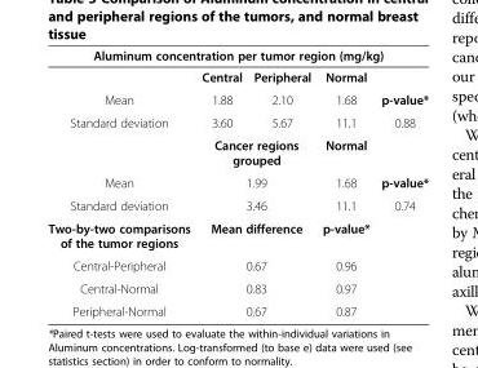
<table><thead><tr><td colspan="5">Aluminum concentration per tumor region (mg/kg)</td></tr><tr><td></td><td>Central</td><td>Peripheral</td><td>Normal</td><td></td></tr></thead><tbody><tr><td>Mean</td><td>1.88</td><td>2.10</td><td>1.68</td><td>p-value*</td></tr><tr><td rowspan="2">Standard deviation</td><td>3.60</td><td>5.67</td><td>11.1</td><td>0.88</td></tr><tr><td colspan="2">Cancer regions grouped</td><td>Normal</td><td></td></tr><tr><td>Mean</td><td colspan="2">1.99</td><td>1.68</td><td>p-value*</td></tr><tr><td>Standard deviation</td><td colspan="2">3.46</td><td>11.1</td><td>0.74</td></tr><tr><td>Two-by-two comparisons of the tumor regions</td><td colspan="2">Mean difference</td><td>p-value*</td><td></td></tr><tr><td>Central-Peripheral</td><td colspan="2">0.67</td><td>0.96</td><td></td></tr><tr><td>Central-Normal</td><td colspan="2">0.83</td><td>0.97</td><td></td></tr><tr><td>Peripheral-Normal</td><td colspan="2">0.67</td><td>0.87</td><td></td></tr></tbody></table>